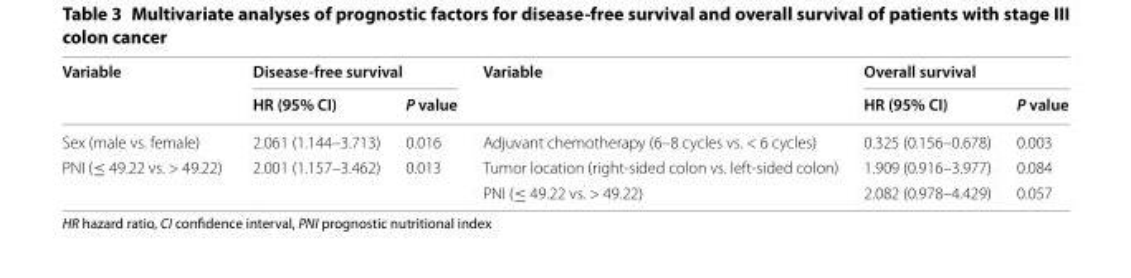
<table><thead><tr><td rowspan="2">Variable</td><td colspan="2">Disease‑free survival</td><td rowspan="2">Variable</td><td colspan="2">Overall survival</td></tr><tr><td>HR (95% CI)</td><td>P value</td><td>HR (95% CI)</td><td>P value</td></tr></thead><tbody><tr><td>Sex (male vs. female)</td><td>2.061 (1.144–3.713)</td><td>0.016</td><td>Adjuvant chemotherapy (6–8 cycles vs. &lt; 6 cycles)</td><td>0.325 (0.156–0.678)</td><td>0.003</td></tr><tr><td rowspan="2">PNI (≤ 49.22 vs. &gt; 49.22)</td><td rowspan="2">2.001 (1.157–3.462)</td><td rowspan="2">0.013</td><td>Tumor location (right-sided colon vs. left-sided colon)</td><td>1.909 (0.916–3.977)</td><td>0.084</td></tr><tr><td>PNI (≤ 49.22 vs. &gt; 49.22)</td><td>2.082 (0.978–4.429)</td><td>0.057</td></tr></tbody></table>